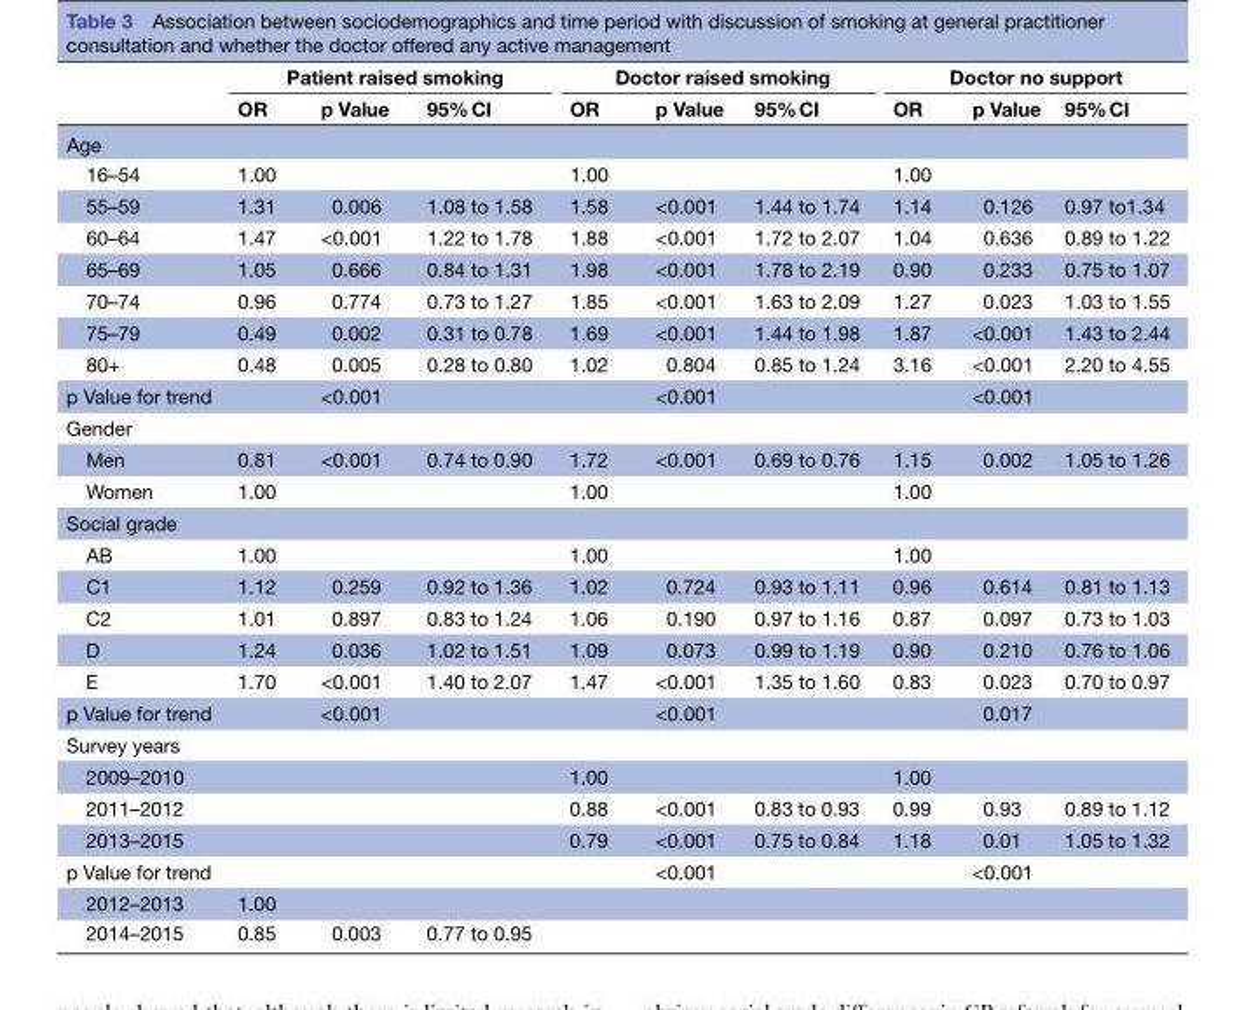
<table><thead><tr><td rowspan="2"></td><td colspan="3">Patient raised smoking</td><td colspan="3">Doctor raised smoking</td><td colspan="3">Doctor no support</td></tr><tr><td>OR</td><td>p Value</td><td>95% CI</td><td>OR</td><td>p Value</td><td>95% CI</td><td>OR</td><td>p Value</td><td>95% CI</td></tr></thead><tbody><tr><td colspan="10">Age</td></tr><tr><td>16–54</td><td>1.00</td><td></td><td></td><td>1.00</td><td></td><td></td><td>1.00</td><td></td><td></td></tr><tr><td>55–59</td><td>1.31</td><td>0.006</td><td>1.08 to 1.58</td><td>1.58</td><td>&lt;0.001</td><td>1.44 to 1.74</td><td>1.14</td><td>0.126</td><td>0.97 to1.34</td></tr><tr><td>60–64</td><td>1.47</td><td>&lt;0.001</td><td>1.22 to 1.78</td><td>1.88</td><td>&lt;0.001</td><td>1.72 to 2.07</td><td>1.04</td><td>0.636</td><td>0.89 to 1.22</td></tr><tr><td>65–69</td><td>1.05</td><td>0.666</td><td>0.84 to 1.31</td><td>1.98</td><td>&lt;0.001</td><td>1.78 to 2.19</td><td>0.90</td><td>0.233</td><td>0.75 to 1.07</td></tr><tr><td>70–74</td><td>0.96</td><td>0.774</td><td>0.73 to 1.27</td><td>1.85</td><td>&lt;0.001</td><td>1.63 to 2.09</td><td>1.27</td><td>0.023</td><td>1.03 to 1.55</td></tr><tr><td>75–79</td><td>0.49</td><td>0.002</td><td>0.31 to 0.78</td><td>1.69</td><td>&lt;0.001</td><td>1.44 to 1.98</td><td>1.87</td><td>&lt;0.001</td><td>1.43 to 2.44</td></tr><tr><td>80+</td><td>0.48</td><td>0.005</td><td>0.28 to 0.80</td><td>1.02</td><td>0.804</td><td>0.85 to 1.24</td><td>3.16</td><td>&lt;0.001</td><td>2.20 to 4.55</td></tr><tr><td colspan="2">p Value for trend</td><td>&lt;0.001</td><td></td><td></td><td>&lt;0.001</td><td></td><td></td><td>&lt;0.001</td><td></td></tr><tr><td colspan="10">Gender</td></tr><tr><td>Men</td><td>0.81</td><td>&lt;0.001</td><td>0.74 to 0.90</td><td>1.72</td><td>&lt;0.001</td><td>0.69 to 0.76</td><td>1.15</td><td>0.002</td><td>1.05 to 1.26</td></tr><tr><td>Women</td><td>1.00</td><td></td><td></td><td>1.00</td><td></td><td></td><td>1.00</td><td></td><td></td></tr><tr><td colspan="10">Social grade</td></tr><tr><td>AB</td><td>1.00</td><td></td><td></td><td>1.00</td><td></td><td></td><td>1.00</td><td></td><td></td></tr><tr><td>C1</td><td>1.12</td><td>0.259</td><td>0.92 to 1.36</td><td>1.02</td><td>0.724</td><td>0.93 to 1.11</td><td>0.96</td><td>0.614</td><td>0.81 to 1.13</td></tr><tr><td>C2</td><td>1.01</td><td>0.897</td><td>0.83 to 1.24</td><td>1.06</td><td>0.190</td><td>0.97 to 1.16</td><td>0.87</td><td>0.097</td><td>0.73 to 1.03</td></tr><tr><td>D</td><td>1.24</td><td>0.036</td><td>1.02 to 1.51</td><td>1.09</td><td>0.073</td><td>0.99 to 1.19</td><td>0.90</td><td>0.210</td><td>0.76 to 1.06</td></tr><tr><td>E</td><td>1.70</td><td>&lt;0.001</td><td>1.40 to 2.07</td><td>1.47</td><td>&lt;0.001</td><td>1.35 to 1.60</td><td>0.83</td><td>0.023</td><td>0.70 to 0.97</td></tr><tr><td colspan="2">p Value for trend</td><td>&lt;0.001</td><td></td><td></td><td>&lt;0.001</td><td></td><td></td><td>0.017</td><td></td></tr><tr><td colspan="10">Survey years</td></tr><tr><td>2009–2010</td><td></td><td></td><td></td><td>1.00</td><td></td><td></td><td>1.00</td><td></td><td></td></tr><tr><td>2011–2012</td><td></td><td></td><td></td><td>0.88</td><td>&lt;0.001</td><td>0.83 to 0.93</td><td>0.99</td><td>0.93</td><td>0.89 to 1.12</td></tr><tr><td>2013–2015</td><td></td><td></td><td></td><td>0.79</td><td>&lt;0.001</td><td>0.75 to 0.84</td><td>1.18</td><td>0.01</td><td>1.05 to 1.32</td></tr><tr><td colspan="2">p Value for trend</td><td></td><td></td><td></td><td>&lt;0.001</td><td></td><td></td><td>&lt;0.001</td><td></td></tr><tr><td>2012–2013</td><td>1.00</td><td></td><td></td><td></td><td></td><td></td><td></td><td></td><td></td></tr><tr><td>2014–2015</td><td>0.85</td><td>0.003</td><td>0.77 to 0.95</td><td></td><td></td><td></td><td></td><td></td><td></td></tr></tbody></table>